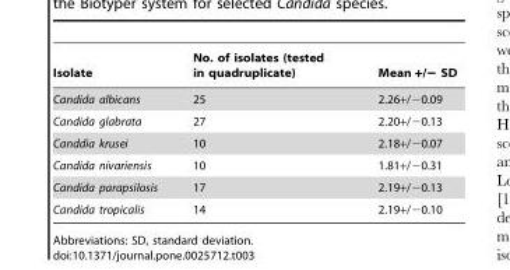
<table><thead><tr><td>Isolate</td><td>No. of isolates (tested in quadruplicate)</td><td>Mean +/− SD</td></tr></thead><tbody><tr><td>Candida albicans</td><td>25</td><td>2.26+/−0.09</td></tr><tr><td>Candida glabrata</td><td>27</td><td>2.20+/−0.13</td></tr><tr><td>Canddia krusei</td><td>10</td><td>2.18+/−0.07</td></tr><tr><td>Candida nivariensis</td><td>10</td><td>1.81+/−0.31</td></tr><tr><td>Candida parapsilosis</td><td>17</td><td>2.19+/−0.13</td></tr><tr><td>Candida tropicalis</td><td>14</td><td>2.19+/−0.10</td></tr></tbody></table>